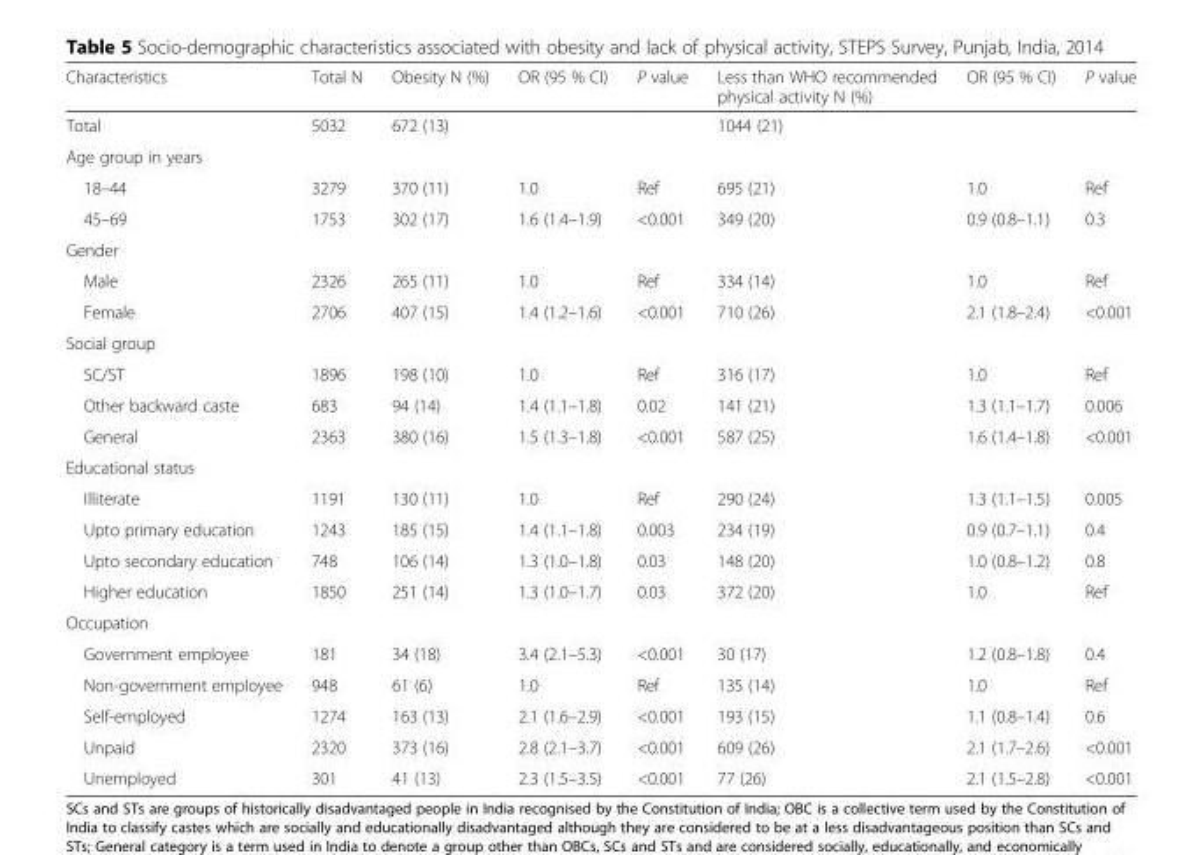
<table><thead><tr><td>Characteristics</td><td>Total N</td><td>Obesity N (%)</td><td>OR (95 % CI)</td><td>P value</td><td>Less than WHO recommended physical activity N (%)</td><td>OR (95 % CI)</td><td>P value</td></tr></thead><tbody><tr><td>Total</td><td>5032</td><td>672 (13)</td><td></td><td></td><td>1044 (21)</td><td></td><td></td></tr><tr><td colspan="8">Age group in years</td></tr><tr><td>18–44</td><td>3279</td><td>370 (11)</td><td>1.0</td><td>Ref</td><td>695 (21)</td><td>1.0</td><td>Ref</td></tr><tr><td>45–69</td><td>1753</td><td>302 (17)</td><td>1.6 (1.4–1.9)</td><td>&lt;0.001</td><td>349 (20)</td><td>0.9 (0.8–1.1)</td><td>0.3</td></tr><tr><td colspan="8">Gender</td></tr><tr><td>Male</td><td>2326</td><td>265 (11)</td><td>1.0</td><td>Ref</td><td>334 (14)</td><td>1.0</td><td>Ref</td></tr><tr><td>Female</td><td>2706</td><td>407 (15)</td><td>1.4 (1.2–1.6)</td><td>&lt;0.001</td><td>710 (26)</td><td>2.1 (1.8–2.4)</td><td>&lt;0.001</td></tr><tr><td colspan="8">Social group</td></tr><tr><td>SC/ST</td><td>1896</td><td>198 (10)</td><td>1.0</td><td>Ref</td><td>316 (17)</td><td>1.0</td><td>Ref</td></tr><tr><td>Other backward caste</td><td>683</td><td>94 (14)</td><td>1.4 (1.1–1.8)</td><td>0.02</td><td>141 (21)</td><td>1.3 (1.1–1.7)</td><td>0.006</td></tr><tr><td>General</td><td>2363</td><td>380 (16)</td><td>1.5 (1.3–1.8)</td><td>&lt;0.001</td><td>587 (25)</td><td>1.6 (1.4–1.8)</td><td>&lt;0.001</td></tr><tr><td colspan="8">Educational status</td></tr><tr><td>Illiterate</td><td>1191</td><td>130 (11)</td><td>1.0</td><td>Ref</td><td>290 (24)</td><td>1.3 (1.1–1.5)</td><td>0.005</td></tr><tr><td>Upto primary education</td><td>1243</td><td>185 (15)</td><td>1.4 (1.1–1.8)</td><td>0.003</td><td>234 (19)</td><td>0.9 (0.7–1.1)</td><td>0.4</td></tr><tr><td>Upto secondary education</td><td>748</td><td>106 (14)</td><td>1.3 (1.0–1.8)</td><td>0.03</td><td>148 (20)</td><td>1.0 (0.8–1.2)</td><td>0.8</td></tr><tr><td>Higher education</td><td>1850</td><td>251 (14)</td><td>1.3 (1.0–1.7)</td><td>0.03</td><td>372 (20)</td><td>1.0</td><td>Ref</td></tr><tr><td colspan="8">Occupation</td></tr><tr><td>Government employee</td><td>181</td><td>34 (18)</td><td>3.4 (2.1–5.3)</td><td>&lt;0.001</td><td>30 (17)</td><td>1.2 (0.8–1.8)</td><td>0.4</td></tr><tr><td>Non-government employee</td><td>948</td><td>61 (6)</td><td>1.0</td><td>Ref</td><td>135 (14)</td><td>1.0</td><td>Ref</td></tr><tr><td>Self-employed</td><td>1274</td><td>163 (13)</td><td>2.1 (1.6–2.9)</td><td>&lt;0.001</td><td>193 (15)</td><td>1.1 (0.8–1.4)</td><td>0.6</td></tr><tr><td>Unpaid</td><td>2320</td><td>373 (16)</td><td>2.8 (2.1–3.7)</td><td>&lt;0.001</td><td>609 (26)</td><td>2.1 (1.7–2.6)</td><td>&lt;0.001</td></tr><tr><td>Unemployed</td><td>301</td><td>41 (13)</td><td>2.3 (1.5–3.5)</td><td>&lt;0.001</td><td>77 (26)</td><td>2.1 (1.5–2.8)</td><td>&lt;0.001</td></tr></tbody></table>